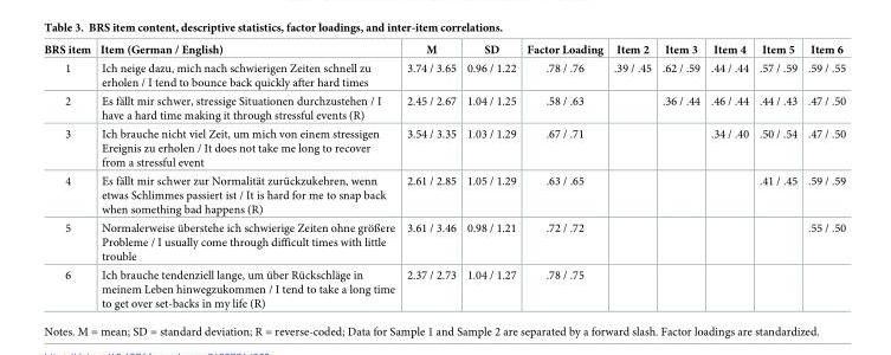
<table><thead><tr><td>BRS item</td><td>Item (German / English)</td><td>M</td><td>SD</td><td>Factor Loading</td><td>Item 2</td><td>Item 3</td><td>Item 4</td><td>Item 5</td><td>Item 6</td></tr></thead><tbody><tr><td>1</td><td>Ich neige dazu, mich nach schwierigen Zeiten schnell zu erholen / I tend to bounce back quickly after hard times</td><td>3.74 / 3.65</td><td>0.96 / 1.22</td><td>.78 / .76</td><td>.39 / .45</td><td>.62 / .59</td><td>.44 / .44</td><td>.57 / .59</td><td>.59 / .55</td></tr><tr><td>2</td><td>Es fa¨llt mir schwer, stressige Situationen durchzustehen / I have a hard time making it through stressful events (R)</td><td>2.45 / 2.67</td><td>1.04 / 1.25</td><td>.58 / .63</td><td></td><td>.36 / .44</td><td>.46 / .44</td><td>.44 / .43</td><td>.47 / .50</td></tr><tr><td>3</td><td>Ich brauche nicht viel Zeit, um mich von einem stressigen Ereignis zu erholen / It does not take me long to recover from a stressful event</td><td>3.54 / 3.35</td><td>1.03 / 1.29</td><td>.67 / .71</td><td></td><td></td><td>.34 / .40</td><td>.50 / .54</td><td>.47 / .50</td></tr><tr><td>4</td><td>Es fa¨llt mir schwer zur Normalita¨t zuru¨ckzukehren, wenn etwas Schlimmes passiert ist / It is hard for me to snap back when something bad happens (R)</td><td>2.61 / 2.85</td><td>1.05 / 1.29</td><td>.63 / .65</td><td></td><td></td><td></td><td>.41 / .45</td><td>.59 / .59</td></tr><tr><td>5</td><td>Normalerweise u¨berstehe ich schwierige Zeiten ohne gro¨ßere Probleme / I usually come through difficult times with little trouble</td><td>3.61 / 3.46</td><td>0.98 / 1.21</td><td>.72 / .72</td><td></td><td></td><td></td><td></td><td>.55 / .50</td></tr><tr><td>6</td><td>Ich brauche tendenziell lange, um u¨ber Ru¨ckschla¨ge in meinem Leben hinwegzukommen / I tend to take a long time to get over set-backs in my life (R)</td><td>2.37 / 2.73</td><td>1.04 / 1.27</td><td>.78 / .75</td><td></td><td></td><td></td><td></td><td></td></tr></tbody></table>